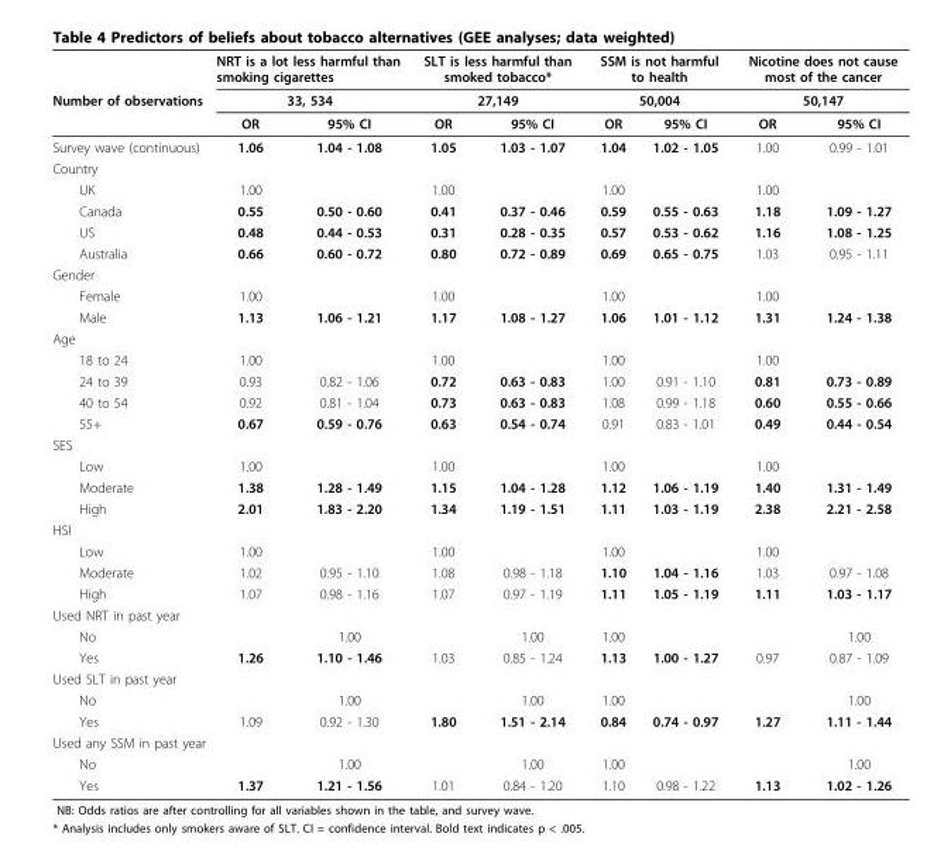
<table><thead><tr><td rowspan="3">Number of observations</td><td rowspan="2" colspan="2">NRT is a lot less harmful than smoking cigarettes 33, 534</td><td rowspan="2" colspan="2">SLT is less harmful than smoked tobacco* 27,149</td><td rowspan="2" colspan="2">SSM is not harmful to health 50,004</td><td rowspan="2" colspan="2">Nicotine does not cause most of the cancer 50,147</td></tr><tr></tr><tr><td>OR</td><td>95% CI</td><td>OR</td><td>95% CI</td><td>OR</td><td>95% CI</td><td>OR</td><td>95% CI</td></tr></thead><tbody><tr><td>Survey wave (continuous)</td><td>1.06</td><td>1.04 - 1.08</td><td>1.05</td><td>1.03 - 1.07</td><td>1.04</td><td>1.02 - 1.05</td><td>1.00</td><td>0.99 - 1.01</td></tr><tr><td colspan="9">Country</td></tr><tr><td>UK</td><td>1.00</td><td></td><td>1.00</td><td></td><td>1.00</td><td></td><td>1.00</td><td></td></tr><tr><td>Canada</td><td>0.55</td><td>0.50 - 0.60</td><td>0.41</td><td>0.37 - 0.46</td><td>0.59</td><td>0.55 - 0.63</td><td>1.18</td><td>1.09 - 1.27</td></tr><tr><td>US</td><td>0.48</td><td>0.44 - 0.53</td><td>0.31</td><td>0.28 - 0.35</td><td>0.57</td><td>0.53 - 0.62</td><td>1.16</td><td>1.08 - 1.25</td></tr><tr><td>Australia</td><td>0.66</td><td>0.60 - 0.72</td><td>0.80</td><td>0.72 - 0.89</td><td>0.69</td><td>0.65 - 0.75</td><td>1.03</td><td>0.95 - 1.11</td></tr><tr><td colspan="9">Gender</td></tr><tr><td>Female</td><td>1.00</td><td></td><td>1.00</td><td></td><td>1.00</td><td></td><td>1.00</td><td></td></tr><tr><td>Male</td><td>1.13</td><td>1.06 - 1.21</td><td>1.17</td><td>1.08 - 1.27</td><td>1.06</td><td>1.01 - 1.12</td><td>1.31</td><td>1.24 - 1.38</td></tr><tr><td colspan="9">Age</td></tr><tr><td>18 to 24</td><td>1.00</td><td></td><td>1.00</td><td></td><td>1.00</td><td></td><td>1.00</td><td></td></tr><tr><td>24 to 39</td><td>0.93</td><td>0.82 - 1.06</td><td>0.72</td><td>0.63 - 0.83</td><td>1.00</td><td>0.91 - 1.10</td><td>0.81</td><td>0.73 - 0.89</td></tr><tr><td>40 to 54</td><td>0.92</td><td>0.81 - 1.04</td><td>0.73</td><td>0.63 - 0.83</td><td>1.08</td><td>0.99 - 1.18</td><td>0.60</td><td>0.55 - 0.66</td></tr><tr><td>55+</td><td>0.67</td><td>0.59 - 0.76</td><td>0.63</td><td>0.54 - 0.74</td><td>0.91</td><td>0.83 - 1.01</td><td>0.49</td><td>0.44 - 0.54</td></tr><tr><td colspan="9">SES</td></tr><tr><td>Low</td><td>1.00</td><td></td><td>1.00</td><td></td><td>1.00</td><td></td><td>1.00</td><td></td></tr><tr><td>Moderate</td><td>1.38</td><td>1.28 - 1.49</td><td>1.15</td><td>1.04 - 1.28</td><td>1.12</td><td>1.06 - 1.19</td><td>1.40</td><td>1.31 - 1.49</td></tr><tr><td>High</td><td>2.01</td><td>1.83 - 2.20</td><td>1.34</td><td>1.19 - 1.51</td><td>1.11</td><td>1.03 - 1.19</td><td>2.38</td><td>2.21 - 2.58</td></tr><tr><td colspan="9">HSI</td></tr><tr><td>Low</td><td>1.00</td><td></td><td>1.00</td><td></td><td>1.00</td><td></td><td>1.00</td><td></td></tr><tr><td>Moderate</td><td>1.02</td><td>0.95 - 1.10</td><td>1.08</td><td>0.98 - 1.18</td><td>1.10</td><td>1.04 - 1.16</td><td>1.03</td><td>0.97 - 1.08</td></tr><tr><td>High</td><td>1.07</td><td>0.98 - 1.16</td><td>1.07</td><td>0.97 - 1.19</td><td>1.11</td><td>1.05 - 1.19</td><td>1.11</td><td>1.03 - 1.17</td></tr><tr><td colspan="9">Used NRT in past year</td></tr><tr><td>No</td><td></td><td>1.00</td><td></td><td>1.00</td><td>1.00</td><td></td><td></td><td>1.00</td></tr><tr><td>Yes</td><td>1.26</td><td>1.10 - 1.46</td><td>1.03</td><td>0.85 - 1.24</td><td>1.13</td><td>1.00 - 1.27</td><td>0.97</td><td>0.87 - 1.09</td></tr><tr><td colspan="9">Used SLT in past year</td></tr><tr><td>No</td><td></td><td>1.00</td><td></td><td>1.00</td><td>1.00</td><td></td><td></td><td>1.00</td></tr><tr><td>Yes</td><td>1.09</td><td>0.92 - 1.30</td><td>1.80</td><td>1.51 - 2.14</td><td>0.84</td><td>0.74 - 0.97</td><td>1.27</td><td>1.11 - 1.44</td></tr><tr><td colspan="9">Used any SSM in past year</td></tr><tr><td>No</td><td></td><td>1.00</td><td></td><td>1.00</td><td>1.00</td><td></td><td></td><td>1.00</td></tr><tr><td>Yes</td><td>1.37</td><td>1.21 - 1.56</td><td>1.01</td><td>0.84 - 1.20</td><td>1.10</td><td>0.98 - 1.22</td><td>1.13</td><td>1.02 - 1.26</td></tr></tbody></table>